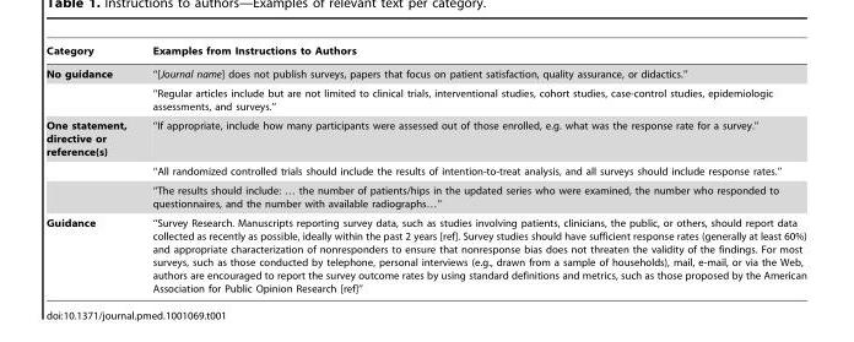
<table><thead><tr><td>Category</td><td>Examples from Instructions to Authors</td></tr></thead><tbody><tr><td rowspan="2">No guidance</td><td>‘‘[Journal name] does not publish surveys, papers that focus on patient satisfaction, quality assurance, or didactics.’’</td></tr><tr><td>‘‘Regular articles include but are not limited to clinical trials, interventional studies, cohort studies, case-control studies, epidemiologic assessments, and surveys.’’</td></tr><tr><td rowspan="3">One statement, directive or reference(s)</td><td>‘‘If appropriate, include how many participants were assessed out of those enrolled, e.g. what was the response rate for a survey.’’</td></tr><tr><td>‘‘All randomized controlled trials should include the results of intention-to-treat analysis, and all surveys should include response rates.’’</td></tr><tr><td>‘‘The results should include: … the number of patients/hips in the updated series who were examined, the number who responded to questionnaires, and the number with available radiographs…’’</td></tr><tr><td>Guidance</td><td>‘‘Survey Research. Manuscripts reporting survey data, such as studies involving patients, clinicians, the public, or others, should report data collected as recently as possible, ideally within the past 2 years [ref]. Survey studies should have sufficient response rates (generally at least 60%) and appropriate characterization of nonresponders to ensure that nonresponse bias does not threaten the validity of the findings. For most surveys, such as those conducted by telephone, personal interviews (e.g., drawn from a sample of households), mail, e-mail, or via the Web, authors are encouraged to report the survey outcome rates by using standard definitions and metrics, such as those proposed by the American Association for Public Opinion Research [ref]’’</td></tr></tbody></table>